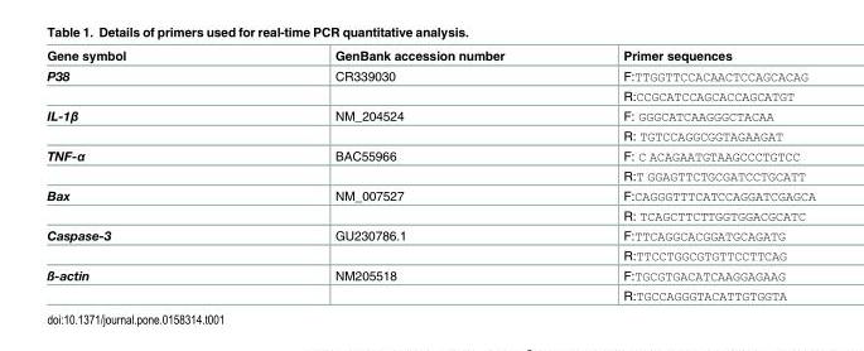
<table><thead><tr><td>Gene symbol</td><td>GenBank accession number</td><td>Primer sequences</td></tr></thead><tbody><tr><td rowspan="2">P38</td><td>CR339030</td><td>F:TTGGTTCCACAACTCCAGCACAG</td></tr><tr><td></td><td>R:CCGCATCCAGCACCAGCATGT</td></tr><tr><td rowspan="2">IL-1β</td><td>NM_204524</td><td>F: GGGCATCAAGGGCTACAA</td></tr><tr><td></td><td>R: TGTCCAGGCGGTAGAAGAT</td></tr><tr><td rowspan="2">TNF-α</td><td>BAC55966</td><td>F: C ACAGAATGTAAGCCCTGTCC</td></tr><tr><td></td><td>R:T GGAGTTCTGCGATCCTGCATT</td></tr><tr><td rowspan="2">Bax</td><td>NM_007527</td><td>F:CAGGGTTTCATCCAGGATCGAGCA</td></tr><tr><td></td><td>R: TCAGCTTCTTGGTGGACGCATC</td></tr><tr><td rowspan="2">Caspase-3</td><td>GU230786.1</td><td>F:TTCAGGCACGGATGCAGATG</td></tr><tr><td></td><td>R:TTCCTGGCGTGTTCCTTCAG</td></tr><tr><td rowspan="2">ß-actin</td><td>NM205518</td><td>F:TGCGTGACATCAAGGAGAAG</td></tr><tr><td></td><td>R:TGCCAGGGTACATTGTGGTA</td></tr></tbody></table>